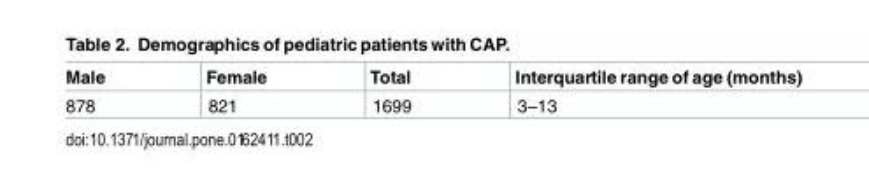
<table><thead><tr><td>Male</td><td>Female</td><td>Total</td><td>Interquartile range of age (months)</td></tr></thead><tbody><tr><td>878</td><td>821</td><td>1699</td><td>3–13</td></tr></tbody></table>